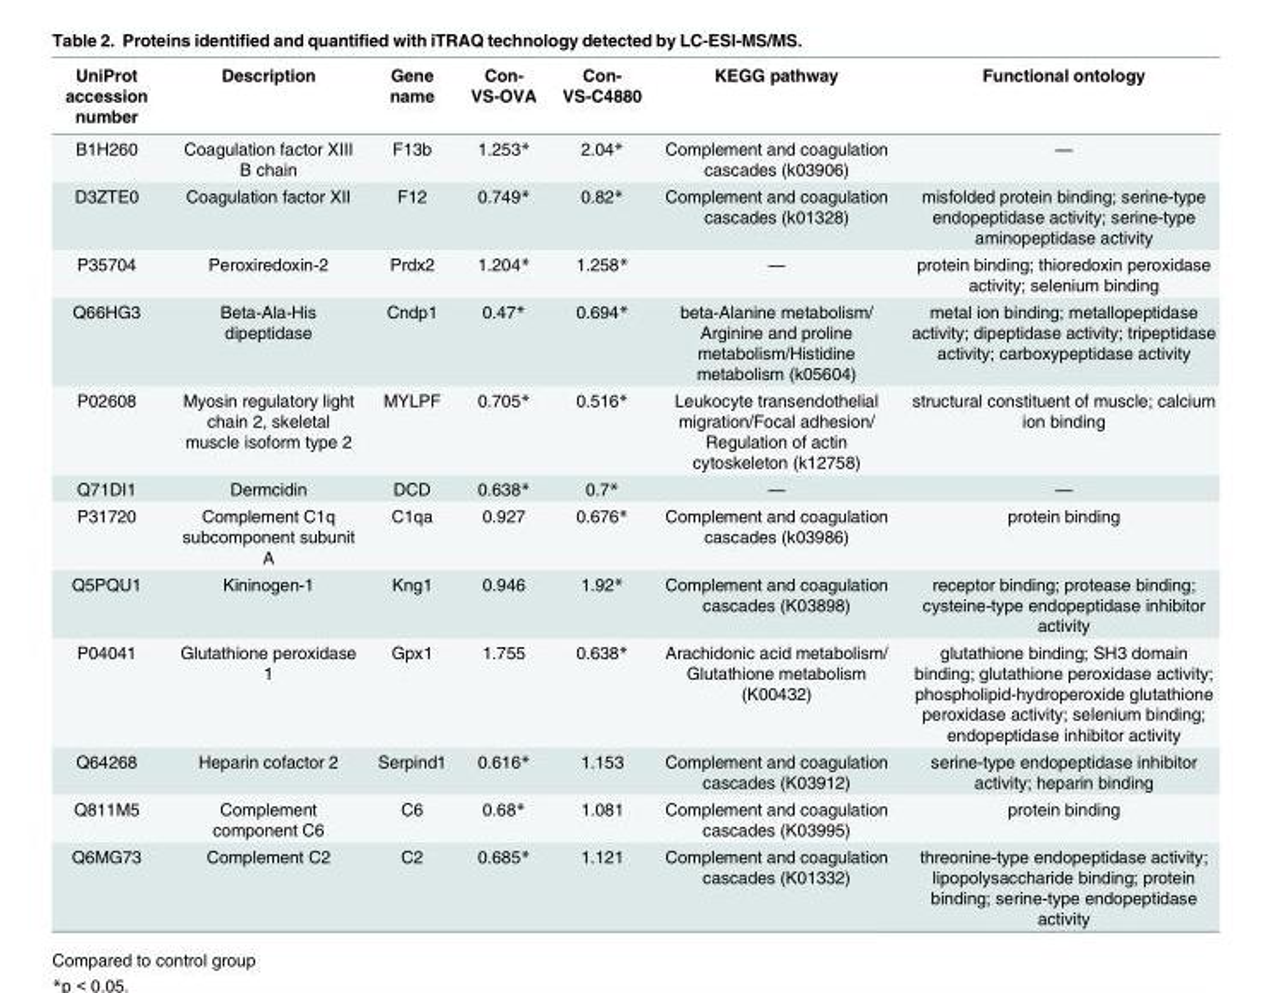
<table><thead><tr><td>UniProt accession number</td><td>Description</td><td>Gene name</td><td>Con- VS-OVA</td><td>Con- VS-C4880</td><td>KEGG pathway</td><td>Functional ontology</td></tr></thead><tbody><tr><td>B1H260</td><td>Coagulation factor XIII B chain</td><td>F13b</td><td>1.253*</td><td>2.04*</td><td>Complement and coagulation cascades (k03906)</td><td>—</td></tr><tr><td>D3ZTE0</td><td>Coagulation factor XII</td><td>F12</td><td>0.749*</td><td>0.82*</td><td>Complement and coagulation cascades (k01328)</td><td>misfolded protein binding; serine-type endopeptidase activity; serine-type aminopeptidase activity</td></tr><tr><td>P35704</td><td>Peroxiredoxin-2</td><td>Prdx2</td><td>1.204*</td><td>1.258*</td><td>—</td><td>protein binding; thioredoxin peroxidase activity; selenium binding</td></tr><tr><td>Q66HG3</td><td>Beta-Ala-His dipeptidase</td><td>Cndp1</td><td>0.47*</td><td>0.694*</td><td>beta-Alanine metabolism/ Arginine and proline metabolism/Histidine metabolism (k05604)</td><td>metal ion binding; metallopeptidase activity; dipeptidase activity; tripeptidase activity; carboxypeptidase activity</td></tr><tr><td>P02608</td><td>Myosin regulatory light chain 2, skeletal muscle isoform type 2</td><td>MYLPF</td><td>0.705*</td><td>0.516*</td><td>Leukocyte transendothelial migration/Focal adhesion/ Regulation of actin cytoskeleton (k12758)</td><td>structural constituent of muscle; calcium ion binding</td></tr><tr><td>Q71DI1</td><td>Dermcidin</td><td>DCD</td><td>0.638*</td><td>0.7*</td><td>—</td><td>—</td></tr><tr><td>P31720</td><td>Complement C1q subcomponent subunit A</td><td>C1qa</td><td>0.927</td><td>0.676*</td><td>Complement and coagulation cascades (k03986)</td><td>protein binding</td></tr><tr><td>Q5PQU1</td><td>Kininogen-1</td><td>Kng1</td><td>0.946</td><td>1.92*</td><td>Complement and coagulation cascades (K03898)</td><td>receptor binding; protease binding; cysteine-type endopeptidase inhibitor activity</td></tr><tr><td>P04041</td><td>Glutathione peroxidase 1</td><td>Gpx1</td><td>1.755</td><td>0.638*</td><td>Arachidonic acid metabolism/ Glutathione metabolism (K00432)</td><td>glutathione binding; SH3 domain binding; glutathione peroxidase activity; phospholipid-hydroperoxide glutathione peroxidase activity; selenium binding; endopeptidase inhibitor activity</td></tr><tr><td>Q64268</td><td>Heparin cofactor 2</td><td>Serpind1</td><td>0.616*</td><td>1.153</td><td>Complement and coagulation cascades (K03912)</td><td>serine-type endopeptidase inhibitor activity; heparin binding</td></tr><tr><td>Q811M5</td><td>Complement component C6</td><td>C6</td><td>0.68*</td><td>1.081</td><td>Complement and coagulation cascades (K03995)</td><td>protein binding</td></tr><tr><td>Q6MG73</td><td>Complement C2</td><td>C2</td><td>0.685*</td><td>1.121</td><td>Complement and coagulation cascades (K01332)</td><td>threonine-type endopeptidase activity; lipopolysaccharide binding; protein binding; serine-type endopeptidase activity</td></tr></tbody></table>